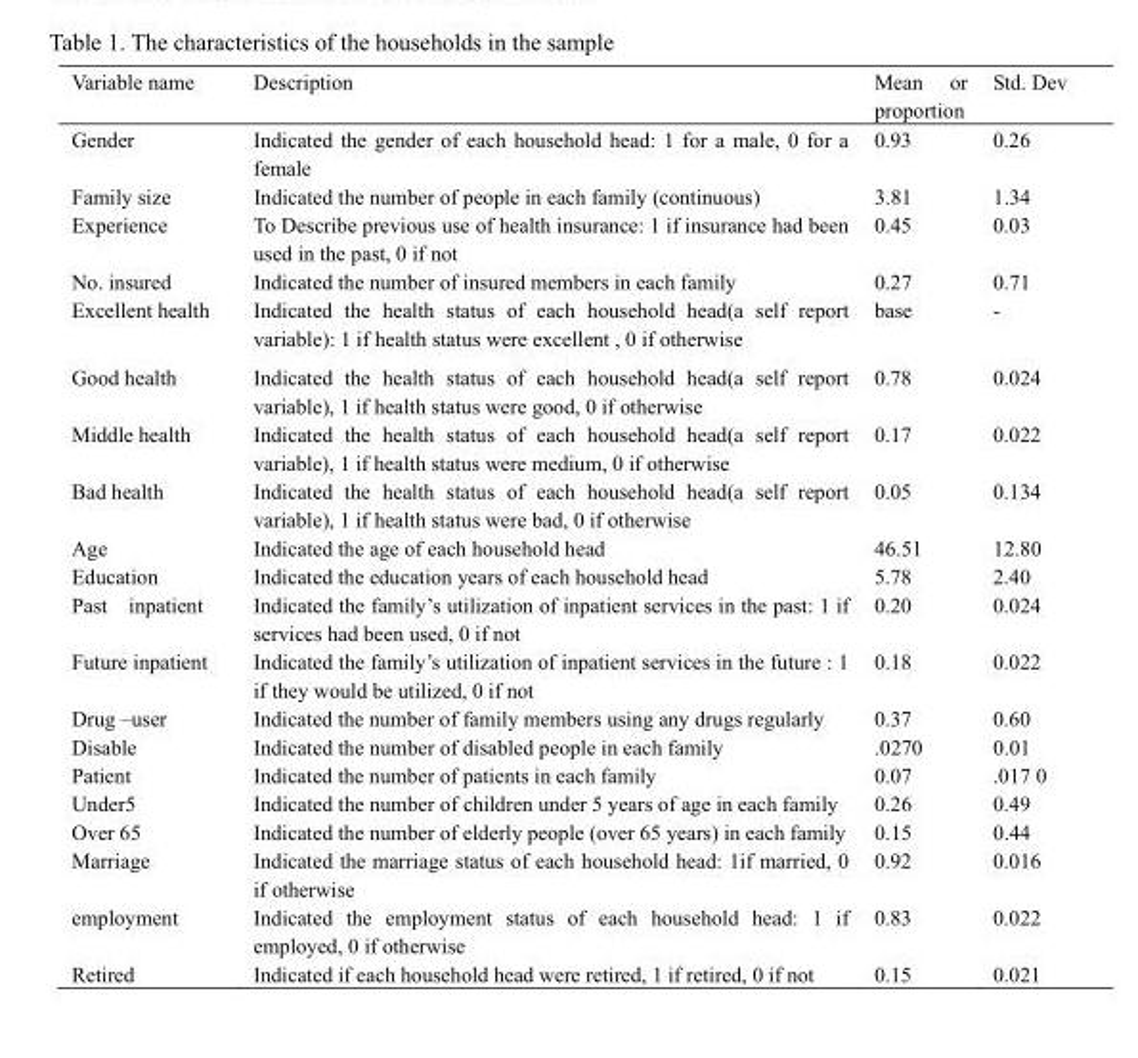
<table><thead><tr><td>Variable name</td><td>Description</td><td>Mean or proportion</td><td>Std. Dev</td></tr></thead><tbody><tr><td>Gender</td><td>Indicated the gender of each household head: 1 for a male, 0 for a female</td><td>0.93</td><td>0.26</td></tr><tr><td>Family size</td><td>Indicated the number of people in each family (continuous)</td><td>3.81</td><td>1.34</td></tr><tr><td>Experience</td><td>To Describe previous use of health insurance: 1 if insurance had been used in the past, 0 if not</td><td>0.45</td><td>0.03</td></tr><tr><td>No. insured</td><td>Indicated the number of insured members in each family</td><td>0.27</td><td>0.71</td></tr><tr><td>Excellent health</td><td>Indicated the health status of each household head(a self report variable): 1 if health status were excellent , 0 if otherwise</td><td>base</td><td>-</td></tr><tr><td>Good health</td><td>Indicated the health status of each household head(a self report variable), 1 if health status were good, 0 if otherwise</td><td>0.78</td><td>0.024</td></tr><tr><td>Middle health</td><td>Indicated the health status of each household head(a self report variable), 1 if health status were medium, 0 if otherwise</td><td>0.17</td><td>0.022</td></tr><tr><td>Bad health</td><td>Indicated the health status of each household head(a self report variable), 1 if health status were bad, 0 if otherwise</td><td>0.05</td><td>0.134</td></tr><tr><td>Age</td><td>Indicated the age of each household head</td><td>46.51</td><td>12.80</td></tr><tr><td>Education</td><td>Indicated the education years of each household head</td><td>5.78</td><td>2.40</td></tr><tr><td>Past inpatient</td><td>Indicated the family’s utilization of inpatient services in the past: 1 if services had been used, 0 if not</td><td>0.20</td><td>0.024</td></tr><tr><td>Future inpatient</td><td>Indicated the family’s utilization of inpatient services in the future : 1 if they would be utilized, 0 if not</td><td>0.18</td><td>0.022</td></tr><tr><td>Drug –user</td><td>Indicated the number of family members using any drugs regularly</td><td>0.37</td><td>0.60</td></tr><tr><td>Disable</td><td>Indicated the number of disabled people in each family</td><td>.0270</td><td>0.01</td></tr><tr><td>Patient</td><td>Indicated the number of patients in each family</td><td>0.07</td><td>.017 0</td></tr><tr><td>Under5</td><td>Indicated the number of children under 5 years of age in each family</td><td>0.26</td><td>0.49</td></tr><tr><td>Over 65</td><td>Indicated the number of elderly people (over 65 years) in each family</td><td>0.15</td><td>0.44</td></tr><tr><td>Marriage</td><td>Indicated the marriage status of each household head: 1if married, 0 if otherwise</td><td>0.92</td><td>0.016</td></tr><tr><td>employment</td><td>Indicated the employment status of each household head: 1 if employed, 0 if otherwise</td><td>0.83</td><td>0.022</td></tr><tr><td>Retired</td><td>Indicated if each household head were retired, 1 if retired, 0 if not</td><td>0.15</td><td>0.021</td></tr></tbody></table>